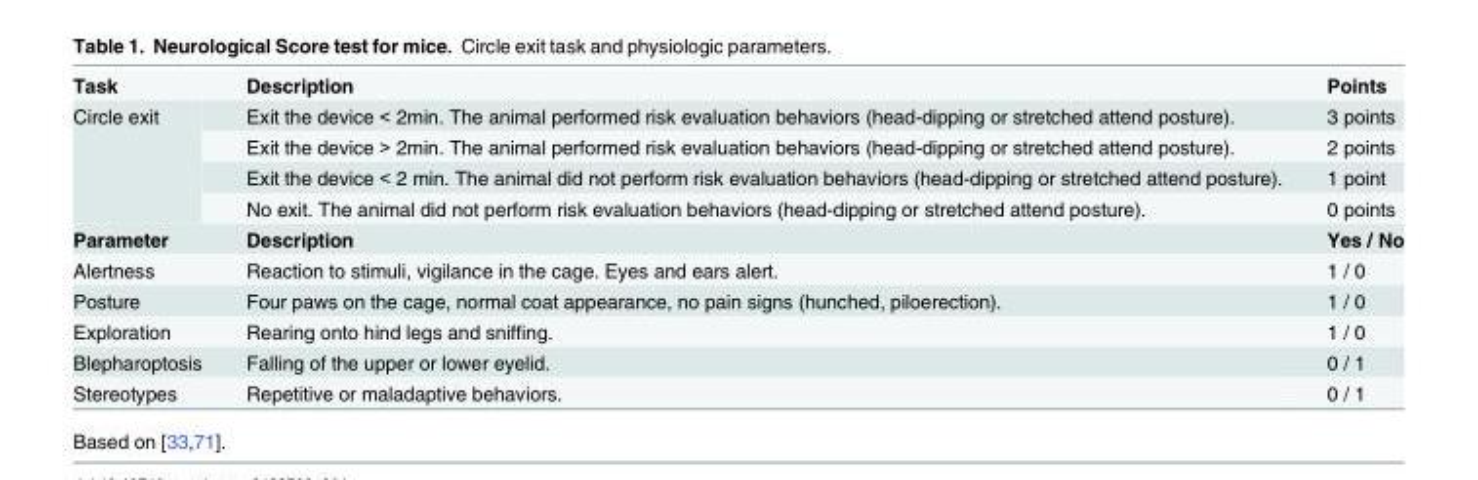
<table><tbody><tr><td>Task</td><td>Description</td><td>Points</td></tr><tr><td rowspan="4">Circle exit</td><td>Exit the device &lt; 2min. The animal performed risk evaluation behaviors (head-dipping or stretched attend posture).</td><td>3 points</td></tr><tr><td>Exit the device &gt; 2min. The animal performed risk evaluation behaviors (head-dipping or stretched attend posture).</td><td>2 points</td></tr><tr><td>Exit the device &lt; 2 min. The animal did not perform risk evaluation behaviors (head-dipping or stretched attend posture).</td><td>1 point</td></tr><tr><td>No exit. The animal did not perform risk evaluation behaviors (head-dipping or stretched attend posture).</td><td>0 points</td></tr><tr><td>Parameter</td><td>Description</td><td>Yes / No</td></tr><tr><td>Alertness</td><td>Reaction to stimuli, vigilance in the cage. Eyes and ears alert.</td><td>1 / 0</td></tr><tr><td>Posture</td><td>Four paws on the cage, normal coat appearance, no pain signs (hunched, piloerection).</td><td>1 / 0</td></tr><tr><td>Exploration</td><td>Rearing onto hind legs and sniffing.</td><td>1 / 0</td></tr><tr><td>Blepharoptosis</td><td>Falling of the upper or lower eyelid.</td><td>0 / 1</td></tr><tr><td>Stereotypes</td><td>Repetitive or maladaptive behaviors.</td><td>0 / 1</td></tr></tbody></table>